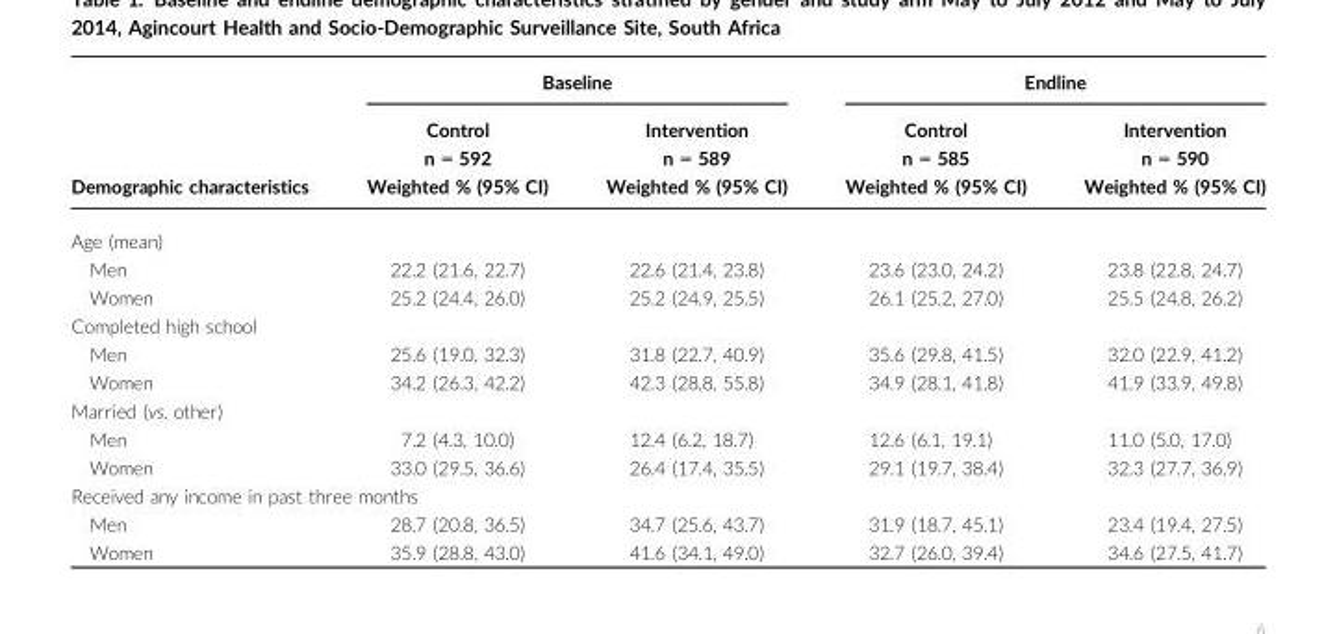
<table><thead><tr><td rowspan="3">Demographic characteristics</td><td colspan="2">Baseline</td><td colspan="2">Endline</td></tr><tr><td rowspan="2">Control n = 592 Weighted % (95% CI)</td><td rowspan="2">Intervention n = 589 Weighted % (95% CI)</td><td rowspan="2">Control n = 585 Weighted % (95% CI)</td><td rowspan="2">Intervention n = 590 Weighted % (95% CI)</td></tr><tr></tr></thead><tbody><tr><td colspan="5">Age (mean)</td></tr><tr><td>Men</td><td>22.2 (21.6, 22.7)</td><td>22.6 (21.4, 23.8)</td><td>23.6 (23.0, 24.2)</td><td>23.8 (22.8, 24.7)</td></tr><tr><td>Women</td><td>25.2 (24.4, 26.0)</td><td>25.2 (24.9, 25.5)</td><td>26.1 (25.2, 27.0)</td><td>25.5 (24.8, 26.2)</td></tr><tr><td colspan="5">Completed high school</td></tr><tr><td>Men</td><td>25.6 (19.0, 32.3)</td><td>31.8 (22.7, 40.9)</td><td>35.6 (29.8, 41.5)</td><td>32.0 (22.9, 41.2)</td></tr><tr><td>Women</td><td>34.2 (26.3, 42.2)</td><td>42.3 (28.8, 55.8)</td><td>34.9 (28.1, 41.8)</td><td>41.9 (33.9, 49.8)</td></tr><tr><td colspan="5">Married (vs. other)</td></tr><tr><td>Men</td><td>7.2 (4.3, 10.0)</td><td>12.4 (6.2, 18.7)</td><td>12.6 (6.1, 19.1)</td><td>11.0 (5.0, 17.0)</td></tr><tr><td>Women</td><td>33.0 (29.5, 36.6)</td><td>26.4 (17.4, 35.5)</td><td>29.1 (19.7, 38.4)</td><td>32.3 (27.7, 36.9)</td></tr><tr><td colspan="5">Received any income in past three months</td></tr><tr><td>Men</td><td>28.7 (20.8, 36.5)</td><td>34.7 (25.6, 43.7)</td><td>31.9 (18.7, 45.1)</td><td>23.4 (19.4, 27.5)</td></tr><tr><td>Women</td><td>35.9 (28.8, 43.0)</td><td>41.6 (34.1, 49.0)</td><td>32.7 (26.0, 39.4)</td><td>34.6 (27.5, 41.7)</td></tr></tbody></table>